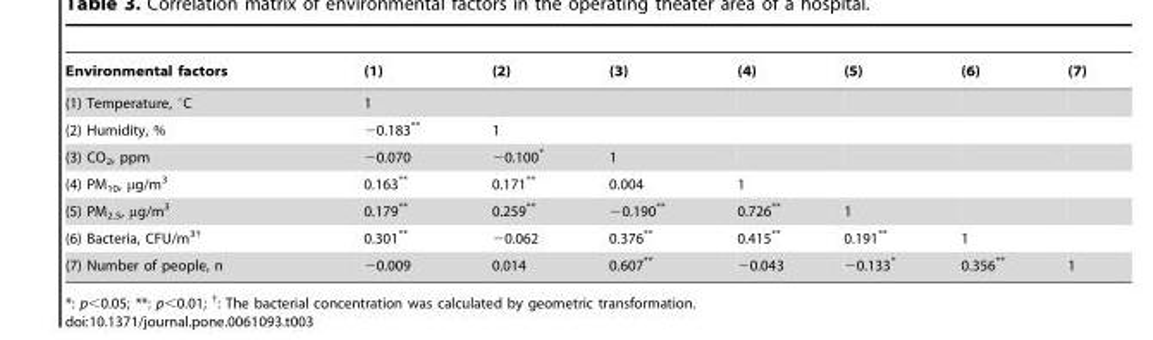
<table><thead><tr><td>Environmental factors</td><td>(1)</td><td>(2)</td><td>(3)</td><td>(4)</td><td>(5)</td><td>(6)</td><td>(7)</td></tr></thead><tbody><tr><td>(1) Temperature, °C</td><td>1</td><td></td><td></td><td></td><td></td><td></td><td></td></tr><tr><td>(2) Humidity, %</td><td>−0.183**</td><td>1</td><td></td><td></td><td></td><td></td><td></td></tr><tr><td>(3) CO<sub>2</sub>, ppm</td><td>−0.070</td><td>−0.100*</td><td>1</td><td></td><td></td><td></td><td></td></tr><tr><td>(4) PM<sub>10</sub>, μg/m<sup>3</sup></td><td>0.163**</td><td>0.171**</td><td>0.004</td><td>1</td><td></td><td></td><td></td></tr><tr><td>(5) PM<sub>2.5</sub>, μg/m<sup>3</sup></td><td>0.179**</td><td>0.259**</td><td>−0.190**</td><td>0.726**</td><td>1</td><td></td><td></td></tr><tr><td>(6) Bacteria, CFU/m<sup>3†</sup></td><td>0.301**</td><td>−0.062</td><td>0.376**</td><td>0.415**</td><td>0.191**</td><td>1</td><td></td></tr><tr><td>(7) Number of people, n</td><td>−0.009</td><td>0.014</td><td>0.607**</td><td>−0.043</td><td>−0.133*</td><td>0.356**</td><td>1</td></tr></tbody></table>